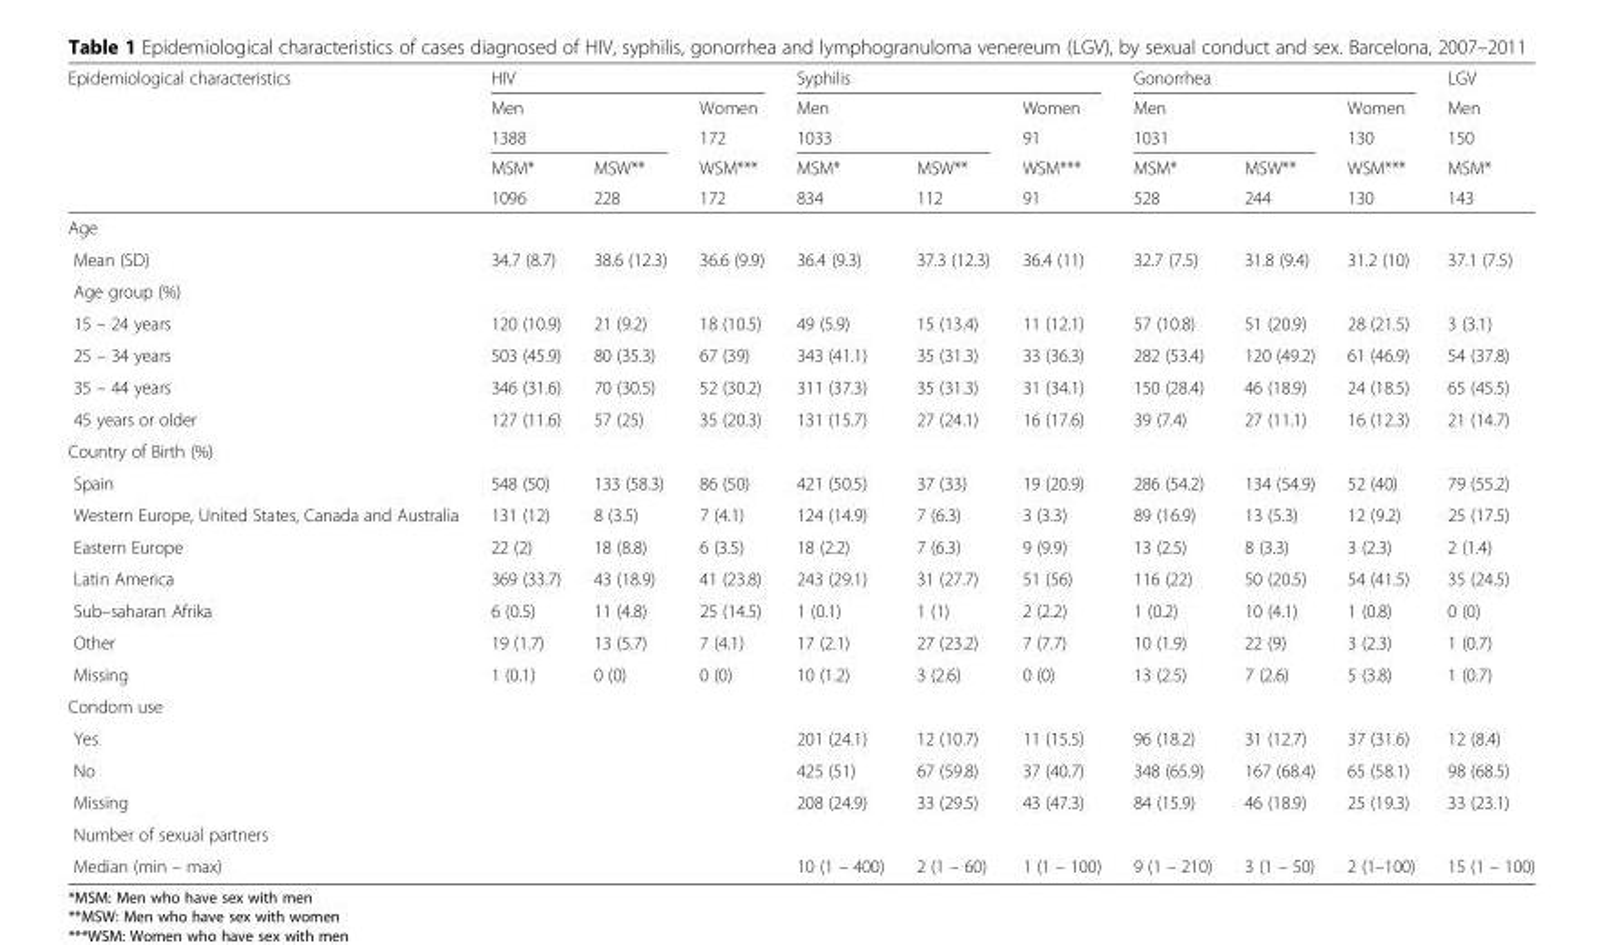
<table><thead><tr><td rowspan="5">Epidemiological characteristics</td><td colspan="3">HIV</td><td colspan="3">Syphilis</td><td colspan="3">Gonorrhea</td><td rowspan="5">LGV Men 150 MSM* 143</td></tr><tr><td rowspan="2" colspan="2">Men 1388</td><td rowspan="4">Women 172 WSM*** 172</td><td rowspan="2" colspan="2">Men 1033</td><td rowspan="4">Women 91 WSM*** 91</td><td rowspan="2" colspan="2">Men 1031</td><td rowspan="4">Women 130 WSM*** 130</td></tr><tr></tr><tr><td rowspan="2">MSM* 1096</td><td rowspan="2">MSW** 228</td><td rowspan="2">MSM* 834</td><td rowspan="2">MSW** 112</td><td rowspan="2">MSM* 528</td><td rowspan="2">MSW** 244</td></tr><tr></tr></thead><tbody><tr><td colspan="11">Age</td></tr><tr><td>Mean (SD)</td><td>34.7 (8.7)</td><td>38.6 (12.3)</td><td>36.6 (9.9)</td><td>36.4 (9.3)</td><td>37.3 (12.3)</td><td>36.4 (11)</td><td>32.7 (7.5)</td><td>31.8 (9.4)</td><td>31.2 (10)</td><td>37.1 (7.5)</td></tr><tr><td colspan="11">Age group (%)</td></tr><tr><td>15 – 24 years</td><td>120 (10.9)</td><td>21 (9.2)</td><td>18 (10.5)</td><td>49 (5.9)</td><td>15 (13.4)</td><td>11 (12.1)</td><td>57 (10.8)</td><td>51 (20.9)</td><td>28 (21.5)</td><td>3 (3.1)</td></tr><tr><td>25 – 34 years</td><td>503 (45.9)</td><td>80 (35.3)</td><td>67 (39)</td><td>343 (41.1)</td><td>35 (31.3)</td><td>33 (36.3)</td><td>282 (53.4)</td><td>120 (49.2)</td><td>61 (46.9)</td><td>54 (37.8)</td></tr><tr><td>35 – 44 years</td><td>346 (31.6)</td><td>70 (30.5)</td><td>52 (30.2)</td><td>311 (37.3)</td><td>35 (31.3)</td><td>31 (34.1)</td><td>150 (28.4)</td><td>46 (18.9)</td><td>24 (18.5)</td><td>65 (45.5)</td></tr><tr><td>45 years or older</td><td>127 (11.6)</td><td>57 (25)</td><td>35 (20.3)</td><td>131 (15.7)</td><td>27 (24.1)</td><td>16 (17.6)</td><td>39 (7.4)</td><td>27 (11.1)</td><td>16 (12.3)</td><td>21 (14.7)</td></tr><tr><td colspan="11">Country of Birth (%)</td></tr><tr><td>Spain</td><td>548 (50)</td><td>133 (58.3)</td><td>86 (50)</td><td>421 (50.5)</td><td>37 (33)</td><td>19 (20.9)</td><td>286 (54.2)</td><td>134 (54.9)</td><td>52 (40)</td><td>79 (55.2)</td></tr><tr><td>Western Europe, United States, Canada and Australia</td><td>131 (12)</td><td>8 (3.5)</td><td>7 (4.1)</td><td>124 (14.9)</td><td>7 (6.3)</td><td>3 (3.3)</td><td>89 (16.9)</td><td>13 (5.3)</td><td>12 (9.2)</td><td>25 (17.5)</td></tr><tr><td>Eastern Europe</td><td>22 (2)</td><td>18 (8.8)</td><td>6 (3.5)</td><td>18 (2.2)</td><td>7 (6.3)</td><td>9 (9.9)</td><td>13 (2.5)</td><td>8 (3.3)</td><td>3 (2.3)</td><td>2 (1.4)</td></tr><tr><td>Latin America</td><td>369 (33.7)</td><td>43 (18.9)</td><td>41 (23.8)</td><td>243 (29.1)</td><td>31 (27.7)</td><td>51 (56)</td><td>116 (22)</td><td>50 (20.5)</td><td>54 (41.5)</td><td>35 (24.5)</td></tr><tr><td>Sub–saharan Afrika</td><td>6 (0.5)</td><td>11 (4.8)</td><td>25 (14.5)</td><td>1 (0.1)</td><td>1 (1)</td><td>2 (2.2)</td><td>1 (0.2)</td><td>10 (4.1)</td><td>1 (0.8)</td><td>0 (0)</td></tr><tr><td>Other</td><td>19 (1.7)</td><td>13 (5.7)</td><td>7 (4.1)</td><td>17 (2.1)</td><td>27 (23.2)</td><td>7 (7.7)</td><td>10 (1.9)</td><td>22 (9)</td><td>3 (2.3)</td><td>1 (0.7)</td></tr><tr><td>Missing</td><td>1 (0.1)</td><td>0 (0)</td><td>0 (0)</td><td>10 (1.2)</td><td>3 (2.6)</td><td>0 (0)</td><td>13 (2.5)</td><td>7 (2.6)</td><td>5 (3.8)</td><td>1 (0.7)</td></tr><tr><td colspan="11">Condom use</td></tr><tr><td>Yes</td><td></td><td></td><td></td><td>201 (24.1)</td><td>12 (10.7)</td><td>11 (15.5)</td><td>96 (18.2)</td><td>31 (12.7)</td><td>37 (31.6)</td><td>12 (8.4)</td></tr><tr><td>No</td><td></td><td></td><td></td><td>425 (51)</td><td>67 (59.8)</td><td>37 (40.7)</td><td>348 (65.9)</td><td>167 (68.4)</td><td>65 (58.1)</td><td>98 (68.5)</td></tr><tr><td>Missing</td><td></td><td></td><td></td><td>208 (24.9)</td><td>33 (29.5)</td><td>43 (47.3)</td><td>84 (15.9)</td><td>46 (18.9)</td><td>25 (19.3)</td><td>33 (23.1)</td></tr><tr><td colspan="11">Number of sexual partners</td></tr><tr><td>Median (min – max)</td><td></td><td></td><td></td><td>10 (1 – 400)</td><td>2 (1 – 60)</td><td>1 (1 – 100)</td><td>9 (1 – 210)</td><td>3 (1 – 50)</td><td>2 (1–100)</td><td>15 (1 – 100)</td></tr></tbody></table>